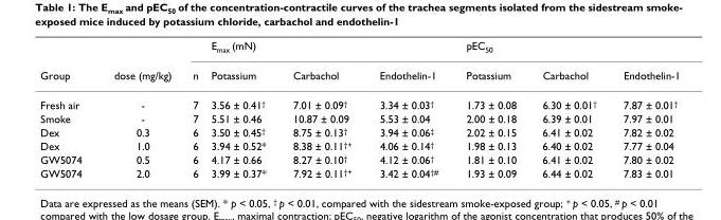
<table><thead><tr><td rowspan="2">Group</td><td rowspan="2">dose (mg/kg)</td><td rowspan="2">n</td><td colspan="3">E<sub>max</sub> (mN)</td><td colspan="3">pEC<sub>50</sub></td></tr><tr><td>Potassium</td><td>Carbachol</td><td>Endothelin-1</td><td>Potassium</td><td>Carbachol</td><td>Endothelin-1</td></tr></thead><tbody><tr><td>Fresh air</td><td>-</td><td>7</td><td>3.56 ± 0.41<sup>†</sup></td><td>7.01 ± 0.09<sup>†</sup></td><td>3.34 ± 0.03<sup>†</sup></td><td>1.73 ± 0.08</td><td>6.30 ± 0.01<sup>†</sup></td><td>7.87 ± 0.01<sup>†</sup></td></tr><tr><td>Smoke</td><td>-</td><td>7</td><td>5.51 ± 0.46</td><td>10.87 ± 0.09</td><td>5.53 ± 0.04</td><td>2.00 ± 0.18</td><td>6.39 ± 0.01</td><td>7.97 ± 0.01</td></tr><tr><td>Dex</td><td>0.3</td><td>6</td><td>3.50 ± 0.45<sup>†</sup></td><td>8.75 ± 0.13<sup>†</sup></td><td>3.94 ± 0.06<sup>‡</sup></td><td>2.02 ± 0.15</td><td>6.41 ± 0.02</td><td>7.82 ± 0.02</td></tr><tr><td>Dex</td><td>1.0</td><td>6</td><td>3.94 ± 0.52*</td><td>8.38 ± 0.11<sup>†+</sup></td><td>4.06 ± 0.14<sup>†</sup></td><td>1.98 ± 0.13</td><td>6.40 ± 0.02</td><td>7.77 ± 0.04</td></tr><tr><td>GW5074</td><td>0.5</td><td>6</td><td>4.17 ± 0.66</td><td>8.27 ± 0.10<sup>†</sup></td><td>4.12 ± 0.06<sup>†</sup></td><td>1.81 ± 0.10</td><td>6.41 ± 0.02</td><td>7.80 ± 0.02</td></tr><tr><td>GW5074</td><td>2.0</td><td>6</td><td>3.99 ± 0.37*</td><td>7.92 ± 0.11<sup>†+</sup></td><td>3.42 ± 0.04<sup>†#</sup></td><td>1.93 ± 0.09</td><td>6.44 ± 0.02</td><td>7.83 ± 0.01</td></tr></tbody></table>